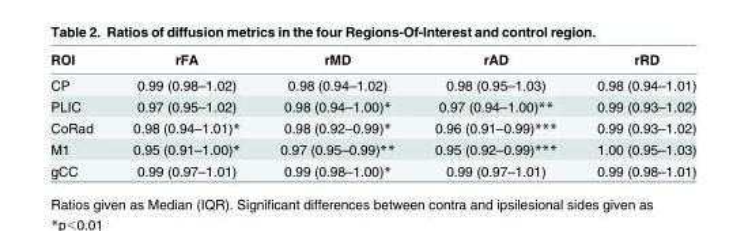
<table><thead><tr><td>ROI</td><td>rFA</td><td>rMD</td><td>rAD</td><td>rRD</td></tr></thead><tbody><tr><td>CP</td><td>0.99 (0.98–1.02)</td><td>0.98 (0.94–1.02)</td><td>0.98 (0.95–1.03)</td><td>0.98 (0.94–1.01)</td></tr><tr><td>PLIC</td><td>0.97 (0.95–1.02)</td><td>0.98 (0.94–1.00)*</td><td>0.97 (0.94–1.00)**</td><td>0.99 (0.93–1.02)</td></tr><tr><td>CoRad</td><td>0.98 (0.94–1.01)*</td><td>0.98 (0.92–0.99)*</td><td>0.96 (0.91–0.99)***</td><td>0.99 (0.93–1.02)</td></tr><tr><td>M1</td><td>0.95 (0.91–1.00)*</td><td>0.97 (0.95–0.99)**</td><td>0.95 (0.92–0.99)***</td><td>1.00 (0.95–1.03)</td></tr><tr><td>gCC</td><td>0.99 (0.97–1.01)</td><td>0.99 (0.98–1.00)*</td><td>0.99 (0.97–1.01)</td><td>0.99 (0.98–1.01)</td></tr></tbody></table>